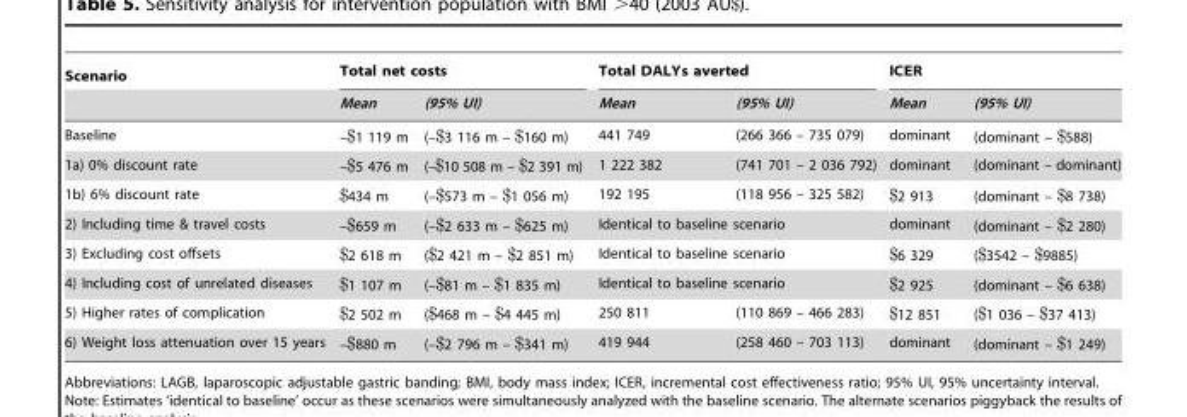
<table><thead><tr><td rowspan="2">Scenario</td><td colspan="2">Total net costs</td><td colspan="2">Total DALYs averted</td><td colspan="2">ICER</td></tr><tr><td>Mean</td><td>(95% UI)</td><td>Mean</td><td>(95% UI)</td><td>Mean</td><td>(95% UI)</td></tr></thead><tbody><tr><td>Baseline</td><td>–$1 119 m</td><td>(–$3 116 m – $160 m)</td><td>441 749</td><td>(266 366 – 735 079)</td><td>dominant</td><td>(dominant – $588)</td></tr><tr><td>1a) 0% discount rate</td><td>–$5 476 m</td><td>(–$10 508 m – $2 391 m)</td><td>1 222 382</td><td>(741 701 – 2 036 792)</td><td>dominant</td><td>(dominant – dominant)</td></tr><tr><td>1b) 6% discount rate</td><td>$434 m</td><td>(–$573 m – $1 056 m)</td><td>192 195</td><td>(118 956 – 325 582)</td><td>$2 913</td><td>(dominant – $8 738)</td></tr><tr><td>2) Including time &amp; travel costs</td><td>–$659 m</td><td>(–$2 633 m – $625 m)</td><td colspan="2">Identical to baseline scenario</td><td>dominant</td><td>(dominant – $2 280)</td></tr><tr><td>3) Excluding cost offsets</td><td>$2 618 m</td><td>($2 421 m – $2 851 m)</td><td colspan="2">Identical to baseline scenario</td><td>$6 329</td><td>($3542 – $9885)</td></tr><tr><td>4) Including cost of unrelated diseases</td><td>$1 107 m</td><td>(–$81 m – $1 835 m)</td><td colspan="2">Identical to baseline scenario</td><td>$2 925</td><td>(dominant – $6 638)</td></tr><tr><td>5) Higher rates of complication</td><td>$2 502 m</td><td>($468 m – $4 445 m)</td><td>250 811</td><td>(110 869 – 466 283)</td><td>$12 851</td><td>($1 036 – $37 413)</td></tr><tr><td>6) Weight loss attenuation over 15 years</td><td>–$880 m</td><td>(–$2 796 m – $341 m)</td><td>419 944</td><td>(258 460 – 703 113)</td><td>dominant</td><td>(dominant – $1 249)</td></tr></tbody></table>